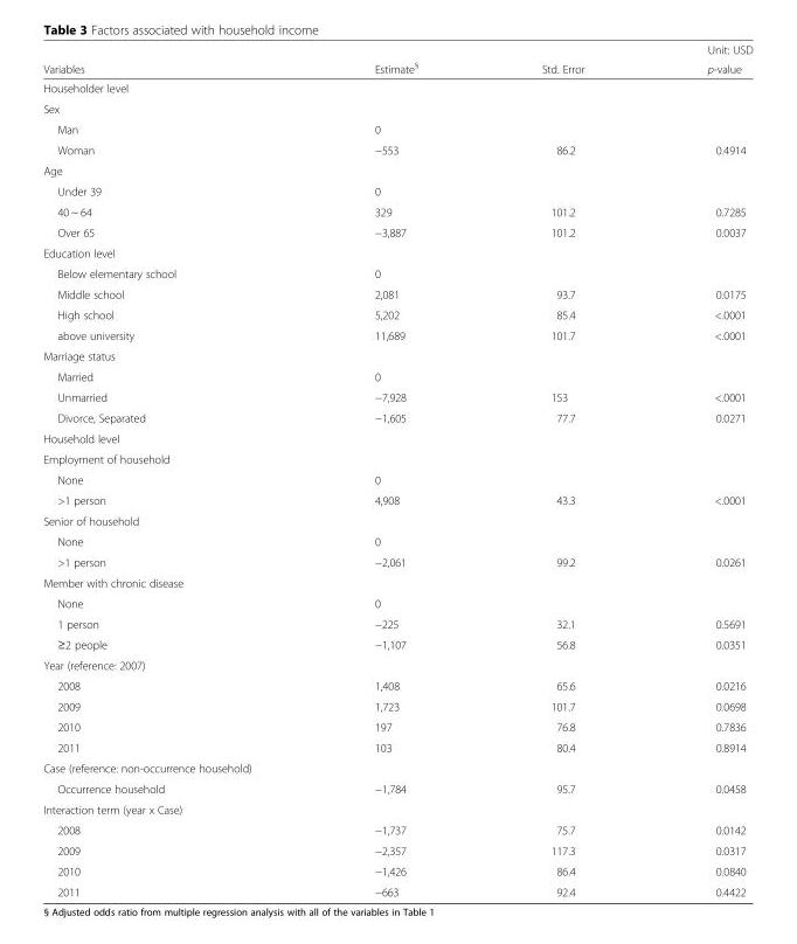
<table><thead><tr><td rowspan="2">Variables</td><td rowspan="2">Estimate<sup>§</sup></td><td rowspan="2">Std. Error</td><td rowspan="2">Unit: USD p-value</td></tr><tr></tr></thead><tbody><tr><td colspan="4">Householder level</td></tr><tr><td colspan="4">Sex</td></tr><tr><td>Man</td><td>0</td><td></td><td></td></tr><tr><td>Woman</td><td>−553</td><td>86.2</td><td>0.4914</td></tr><tr><td colspan="4">Age</td></tr><tr><td>Under 39</td><td>0</td><td></td><td></td></tr><tr><td>40 ~ 64</td><td>329</td><td>101.2</td><td>0.7285</td></tr><tr><td>Over 65</td><td>−3,887</td><td>101.2</td><td>0.0037</td></tr><tr><td colspan="4">Education level</td></tr><tr><td>Below elementary school</td><td>0</td><td></td><td></td></tr><tr><td>Middle school</td><td>2,081</td><td>93.7</td><td>0.0175</td></tr><tr><td>High school</td><td>5,202</td><td>85.4</td><td>&lt;.0001</td></tr><tr><td>above university</td><td>11,689</td><td>101.7</td><td>&lt;.0001</td></tr><tr><td colspan="4">Marriage status</td></tr><tr><td>Married</td><td>0</td><td></td><td></td></tr><tr><td>Unmarried</td><td>−7,928</td><td>153</td><td>&lt;.0001</td></tr><tr><td>Divorce, Separated</td><td>−1,605</td><td>77.7</td><td>0.0271</td></tr><tr><td colspan="4">Household level</td></tr><tr><td colspan="4">Employment of household</td></tr><tr><td>None</td><td>0</td><td></td><td></td></tr><tr><td>&gt;1 person</td><td>4,908</td><td>43.3</td><td>&lt;.0001</td></tr><tr><td colspan="4">Senior of household</td></tr><tr><td>None</td><td>0</td><td></td><td></td></tr><tr><td>&gt;1 person</td><td>−2,061</td><td>99.2</td><td>0.0261</td></tr><tr><td colspan="4">Member with chronic disease</td></tr><tr><td>None</td><td>0</td><td></td><td></td></tr><tr><td>1 person</td><td>−225</td><td>32.1</td><td>0.5691</td></tr><tr><td>≥2 people</td><td>−1,107</td><td>56.8</td><td>0.0351</td></tr><tr><td colspan="4">Year (reference: 2007)</td></tr><tr><td>2008</td><td>1,408</td><td>65.6</td><td>0.0216</td></tr><tr><td>2009</td><td>1,723</td><td>101.7</td><td>0.0698</td></tr><tr><td>2010</td><td>197</td><td>76.8</td><td>0.7836</td></tr><tr><td>2011</td><td>103</td><td>80.4</td><td>0.8914</td></tr><tr><td colspan="4">Case (reference: non-occurrence household)</td></tr><tr><td>Occurrence household</td><td>−1,784</td><td>95.7</td><td>0.0458</td></tr><tr><td colspan="4">Interaction term (year x Case)</td></tr><tr><td>2008</td><td>−1,737</td><td>75.7</td><td>0.0142</td></tr><tr><td>2009</td><td>−2,357</td><td>117.3</td><td>0.0317</td></tr><tr><td>2010</td><td>−1,426</td><td>86.4</td><td>0.0840</td></tr><tr><td>2011</td><td>−663</td><td>92.4</td><td>0.4422</td></tr></tbody></table>